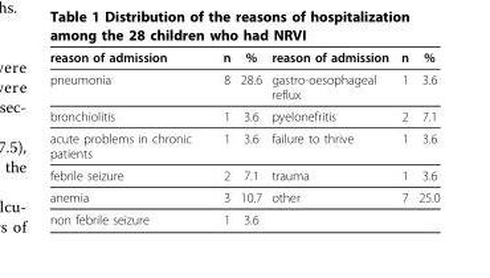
<table><tbody><tr><td>reason of admission</td><td>n</td><td>%</td><td>reason of admission</td><td>n</td><td>%</td></tr><tr><td>pneumonia</td><td>8</td><td>28.6</td><td>gastro-oesophageal reflux</td><td>1</td><td>3.6</td></tr><tr><td>bronchiolitis</td><td>1</td><td>3.6</td><td>pyelonefritis</td><td>2</td><td>7.1</td></tr><tr><td>acute problems in chronic patients</td><td>1</td><td>3.6</td><td>failure to thrive</td><td>1</td><td>3.6</td></tr><tr><td>febrile seizure</td><td>2</td><td>7.1</td><td>trauma</td><td>1</td><td>3.6</td></tr><tr><td>anemia</td><td>3</td><td>10.7</td><td>other</td><td>7</td><td>25.0</td></tr><tr><td>non febrile seizure</td><td>1</td><td>3.6</td><td></td><td></td><td></td></tr></tbody></table>